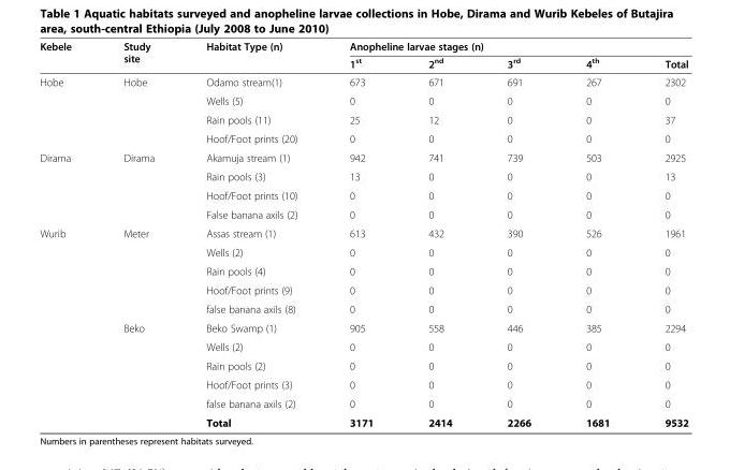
<table><thead><tr><td rowspan="2">Kebele</td><td rowspan="2">Study site</td><td rowspan="2">Habitat Type (n)</td><td colspan="5">Anopheline larvae stages (n)</td></tr><tr><td>1<sup>st</sup></td><td>2<sup>nd</sup></td><td>3<sup>rd</sup></td><td>4<sup>th</sup></td><td>Total</td></tr></thead><tbody><tr><td rowspan="4">Hobe</td><td>Hobe</td><td>Odamo stream(1)</td><td>673</td><td>671</td><td>691</td><td>267</td><td>2302</td></tr><tr><td></td><td>Wells (5)</td><td>0</td><td>0</td><td>0</td><td>0</td><td>0</td></tr><tr><td></td><td>Rain pools (11)</td><td>25</td><td>12</td><td>0</td><td>0</td><td>37</td></tr><tr><td></td><td>Hoof/Foot prints (20)</td><td>0</td><td>0</td><td>0</td><td>0</td><td>0</td></tr><tr><td rowspan="4">Dirama</td><td>Dirama</td><td>Akamuja stream (1)</td><td>942</td><td>741</td><td>739</td><td>503</td><td>2925</td></tr><tr><td></td><td>Rain pools (3)</td><td>13</td><td>0</td><td>0</td><td>0</td><td>13</td></tr><tr><td></td><td>Hoof/Foot prints (10)</td><td>0</td><td>0</td><td>0</td><td>0</td><td>0</td></tr><tr><td></td><td>False banana axils (2)</td><td>0</td><td>0</td><td>0</td><td>0</td><td>0</td></tr><tr><td rowspan="11">Wurib</td><td>Meter</td><td>Assas stream (1)</td><td>613</td><td>432</td><td>390</td><td>526</td><td>1961</td></tr><tr><td></td><td>Wells (2)</td><td>0</td><td>0</td><td>0</td><td>0</td><td>0</td></tr><tr><td></td><td>Rain pools (4)</td><td>0</td><td>0</td><td>0</td><td>0</td><td>0</td></tr><tr><td></td><td>Hoof/Foot prints (9)</td><td>0</td><td>0</td><td>0</td><td>0</td><td>0</td></tr><tr><td></td><td>false banana axils (8)</td><td>0</td><td>0</td><td>0</td><td>0</td><td>0</td></tr><tr><td>Beko</td><td>Beko Swamp (1)</td><td>905</td><td>558</td><td>446</td><td>385</td><td>2294</td></tr><tr><td></td><td>Wells (2)</td><td>0</td><td>0</td><td>0</td><td>0</td><td>0</td></tr><tr><td></td><td>Rain pools (2)</td><td>0</td><td>0</td><td>0</td><td>0</td><td>0</td></tr><tr><td></td><td>Hoof/Foot prints (3)</td><td>0</td><td>0</td><td>0</td><td>0</td><td>0</td></tr><tr><td></td><td>false banana axils (2)</td><td>0</td><td>0</td><td>0</td><td>0</td><td>0</td></tr><tr><td></td><td>Total</td><td>3171</td><td>2414</td><td>2266</td><td>1681</td><td>9532</td></tr></tbody></table>